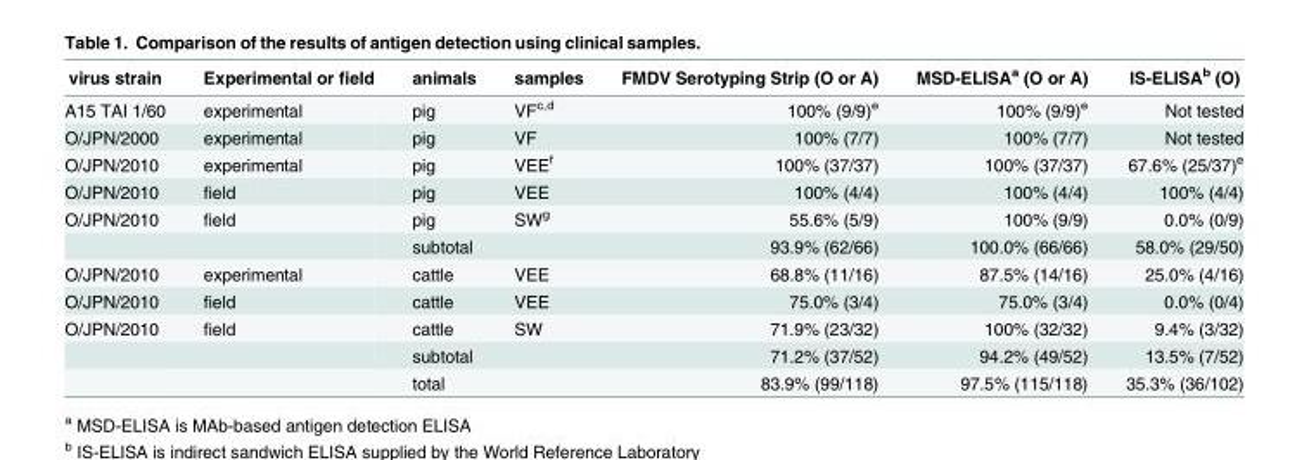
<table><thead><tr><td>virus strain</td><td>Experimental or field</td><td>animals</td><td>samples</td><td>FMDV Serotyping Strip (O or A)</td><td>MSD-ELISA<sup>a</sup> (O or A)</td><td>IS-ELISA<sup>b</sup> (O)</td></tr></thead><tbody><tr><td>A15 TAI 1/60</td><td>experimental</td><td>pig</td><td>VF<sup>c,d</sup></td><td>100% (9/9)<sup>e</sup></td><td>100% (9/9)<sup>e</sup></td><td>Not tested</td></tr><tr><td>O/JPN/2000</td><td>experimental</td><td>pig</td><td>VF</td><td>100% (7/7)</td><td>100% (7/7)</td><td>Not tested</td></tr><tr><td>O/JPN/2010</td><td>experimental</td><td>pig</td><td>VEE<sup>f</sup></td><td>100% (37/37)</td><td>100% (37/37)</td><td>67.6% (25/37)<sup>e</sup></td></tr><tr><td>O/JPN/2010</td><td>field</td><td>pig</td><td>VEE</td><td>100% (4/4)</td><td>100% (4/4)</td><td>100% (4/4)</td></tr><tr><td rowspan="2">O/JPN/2010</td><td>field</td><td>pig</td><td>SW<sup>g</sup></td><td>55.6% (5/9)</td><td>100% (9/9)</td><td>0.0% (0/9)</td></tr><tr><td></td><td>subtotal</td><td></td><td>93.9% (62/66)</td><td>100.0% (66/66)</td><td>58.0% (29/50)</td></tr><tr><td>O/JPN/2010</td><td>experimental</td><td>cattle</td><td>VEE</td><td>68.8% (11/16)</td><td>87.5% (14/16)</td><td>25.0% (4/16)</td></tr><tr><td>O/JPN/2010</td><td>field</td><td>cattle</td><td>VEE</td><td>75.0% (3/4)</td><td>75.0% (3/4)</td><td>0.0% (0/4)</td></tr><tr><td rowspan="3">O/JPN/2010</td><td>field</td><td>cattle</td><td>SW</td><td>71.9% (23/32)</td><td>100% (32/32)</td><td>9.4% (3/32)</td></tr><tr><td></td><td>subtotal</td><td></td><td>71.2% (37/52)</td><td>94.2% (49/52)</td><td>13.5% (7/52)</td></tr><tr><td></td><td>total</td><td></td><td>83.9% (99/118)</td><td>97.5% (115/118)</td><td>35.3% (36/102)</td></tr></tbody></table>